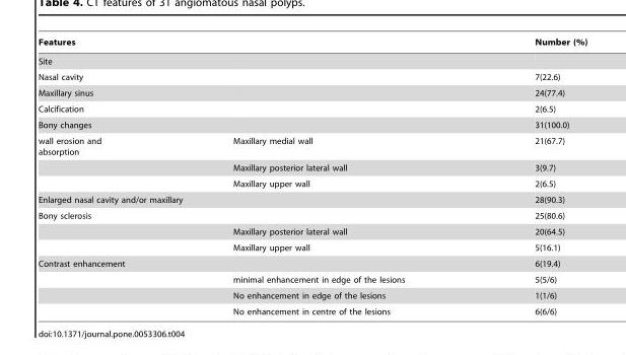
<table><thead><tr><td>Features</td><td></td><td>Number (%)</td></tr></thead><tbody><tr><td colspan="3">Site</td></tr><tr><td>Nasal cavity</td><td></td><td>7(22.6)</td></tr><tr><td>Maxillary sinus</td><td></td><td>24(77.4)</td></tr><tr><td>Calcification</td><td></td><td>2(6.5)</td></tr><tr><td>Bony changes</td><td></td><td>31(100.0)</td></tr><tr><td rowspan="3">wall erosion and absorption</td><td>Maxillary medial wall</td><td>21(67.7)</td></tr><tr><td>Maxillary posterior lateral wall</td><td>3(9.7)</td></tr><tr><td>Maxillary upper wall</td><td>2(6.5)</td></tr><tr><td>Enlarged nasal cavity and/or maxillary</td><td></td><td>28(90.3)</td></tr><tr><td rowspan="3">Bony sclerosis</td><td></td><td>25(80.6)</td></tr><tr><td>Maxillary posterior lateral wall</td><td>20(64.5)</td></tr><tr><td>Maxillary upper wall</td><td>5(16.1)</td></tr><tr><td rowspan="4">Contrast enhancement</td><td></td><td>6(19.4)</td></tr><tr><td>minimal enhancement in edge of the lesions</td><td>5(5/6)</td></tr><tr><td>No enhancement in edge of the lesions</td><td>1(1/6)</td></tr><tr><td>No enhancement in centre of the lesions</td><td>6(6/6)</td></tr></tbody></table>